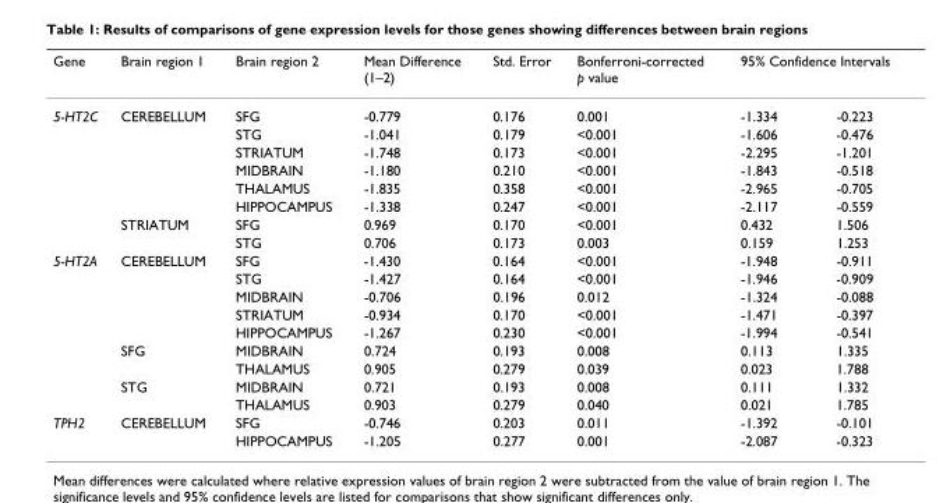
<table><thead><tr><td rowspan="2">Gene 5-HT2C</td><td rowspan="2">Brain region 1 CEREBELLUM</td><td rowspan="2">Brain region 2 SFG</td><td rowspan="2">Mean Difference (1–2) -0.779</td><td rowspan="2">Std. Error 0.176</td><td rowspan="2">Bonferroni-corrected p value 0.001</td><td colspan="2">95% Confidence Intervals</td></tr><tr><td>-1.334</td><td>-0.223</td></tr></thead><tbody><tr><td></td><td></td><td>STG</td><td>-1.041</td><td>0.179</td><td>&lt;0.001</td><td>-1.606</td><td>-0.476</td></tr><tr><td></td><td></td><td>STRIATUM</td><td>-1.748</td><td>0.173</td><td>&lt;0.001</td><td>-2.295</td><td>-1.201</td></tr><tr><td></td><td></td><td>MIDBRAIN</td><td>-1.180</td><td>0.210</td><td>&lt;0.001</td><td>-1.843</td><td>-0.518</td></tr><tr><td></td><td></td><td>THALAMUS</td><td>-1.835</td><td>0.358</td><td>&lt;0.001</td><td>-2.965</td><td>-0.705</td></tr><tr><td></td><td></td><td>HIPPOCAMPUS</td><td>-1.338</td><td>0.247</td><td>&lt;0.001</td><td>-2.117</td><td>-0.559</td></tr><tr><td></td><td>STRIATUM</td><td>SFG</td><td>0.969</td><td>0.170</td><td>&lt;0.001</td><td>0.432</td><td>1.506</td></tr><tr><td></td><td></td><td>STG</td><td>0.706</td><td>0.173</td><td>0.003</td><td>0.159</td><td>1.253</td></tr><tr><td rowspan="9">5-HT2A</td><td>CEREBELLUM</td><td>SFG</td><td>-1.430</td><td>0.164</td><td>&lt;0.001</td><td>-1.948</td><td>-0.911</td></tr><tr><td></td><td>STG</td><td>-1.427</td><td>0.164</td><td>&lt;0.001</td><td>-1.946</td><td>-0.909</td></tr><tr><td></td><td>MIDBRAIN</td><td>-0.706</td><td>0.196</td><td>0.012</td><td>-1.324</td><td>-0.088</td></tr><tr><td></td><td>STRIATUM</td><td>-0.934</td><td>0.170</td><td>&lt;0.001</td><td>-1.471</td><td>-0.397</td></tr><tr><td></td><td>HIPPOCAMPUS</td><td>-1.267</td><td>0.230</td><td>&lt;0.001</td><td>-1.994</td><td>-0.541</td></tr><tr><td>SFG</td><td>MIDBRAIN</td><td>0.724</td><td>0.193</td><td>0.008</td><td>0.113</td><td>1.335</td></tr><tr><td></td><td>THALAMUS</td><td>0.905</td><td>0.279</td><td>0.039</td><td>0.023</td><td>1.788</td></tr><tr><td>STG</td><td>MIDBRAIN</td><td>0.721</td><td>0.193</td><td>0.008</td><td>0.111</td><td>1.332</td></tr><tr><td></td><td>THALAMUS</td><td>0.903</td><td>0.279</td><td>0.040</td><td>0.021</td><td>1.785</td></tr><tr><td rowspan="2">TPH2</td><td>CEREBELLUM</td><td>SFG</td><td>-0.746</td><td>0.203</td><td>0.011</td><td>-1.392</td><td>-0.101</td></tr><tr><td></td><td>HIPPOCAMPUS</td><td>-1.205</td><td>0.277</td><td>0.001</td><td>-2.087</td><td>-0.323</td></tr></tbody></table>